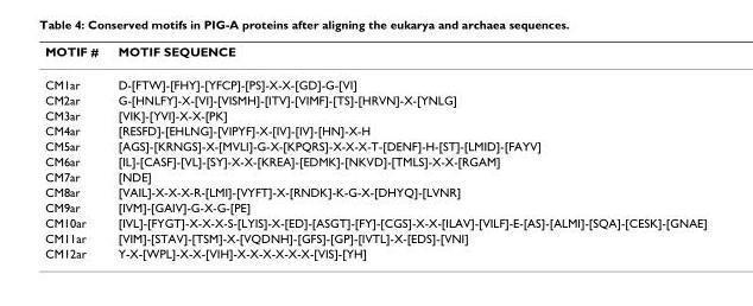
<table><thead><tr><td>MOTIF #</td><td>MOTIF SEQUENCE</td></tr></thead><tbody><tr><td>CM1ar</td><td>D-[FTW]-[FHY]-[YFCP]-[PS]-X-X-[GD]-G-[VI]</td></tr><tr><td>CM2ar</td><td>G-[HNLFY]-X-[VI]-[VISMH]-[ITV]-[VIMF]-[TS]-[HRVN]-X-[YNLG]</td></tr><tr><td>CM3ar</td><td>[VIK]-[YVI]-X-X-[PK]</td></tr><tr><td>CM4ar</td><td>[RESFD]-[EHLNG]-[VIPYF]-X-[IV]-[IV]-[HN]-X-H</td></tr><tr><td>CM5ar</td><td>[AGS]-[KRNGS]-X-[MVLI]-G-X-[KPQRS]-X-X-X-T-[DENF]-H-[ST]-[LMID]-[FAYV]</td></tr><tr><td>CM6ar</td><td>[IL]-[CASF]-[VL]-[SY]-X-X-[KREA]-[EDMK]-[NKVD]-[TMLS]-X-X-[RGAM]</td></tr><tr><td>CM7ar</td><td>[NDE]</td></tr><tr><td>CM8ar</td><td>[VAIL]-X-X-X-R-[LMI]-[VYFT]-X-[RNDK]-K-G-X-[DHYQ]-[LVNR]</td></tr><tr><td>CM9ar</td><td>[IVM]-[GAIV]-G-X-G-[PE]</td></tr><tr><td>CM10ar</td><td>[IVL]-[FYGT]-X-X-X-S-[LYIS]-X-[ED]-[ASGT]-[FY]-[CGS]-X-X-[ILAV]-[VILF]-E-[AS]-[ALMI]-[SQA]-[CESK]-[GNAE]</td></tr><tr><td>CM11ar</td><td>[VIM]-[STAV]-[TSM]-X-[VQDNH]-[GFS]-[GP]-[IVTL]-X-[EDS]-[VNI]</td></tr><tr><td>CM12ar</td><td>Y-X-[WPL]-X-X-[VIH]-X-X-X-X-X-X-[VIS]-[YH]</td></tr></tbody></table>